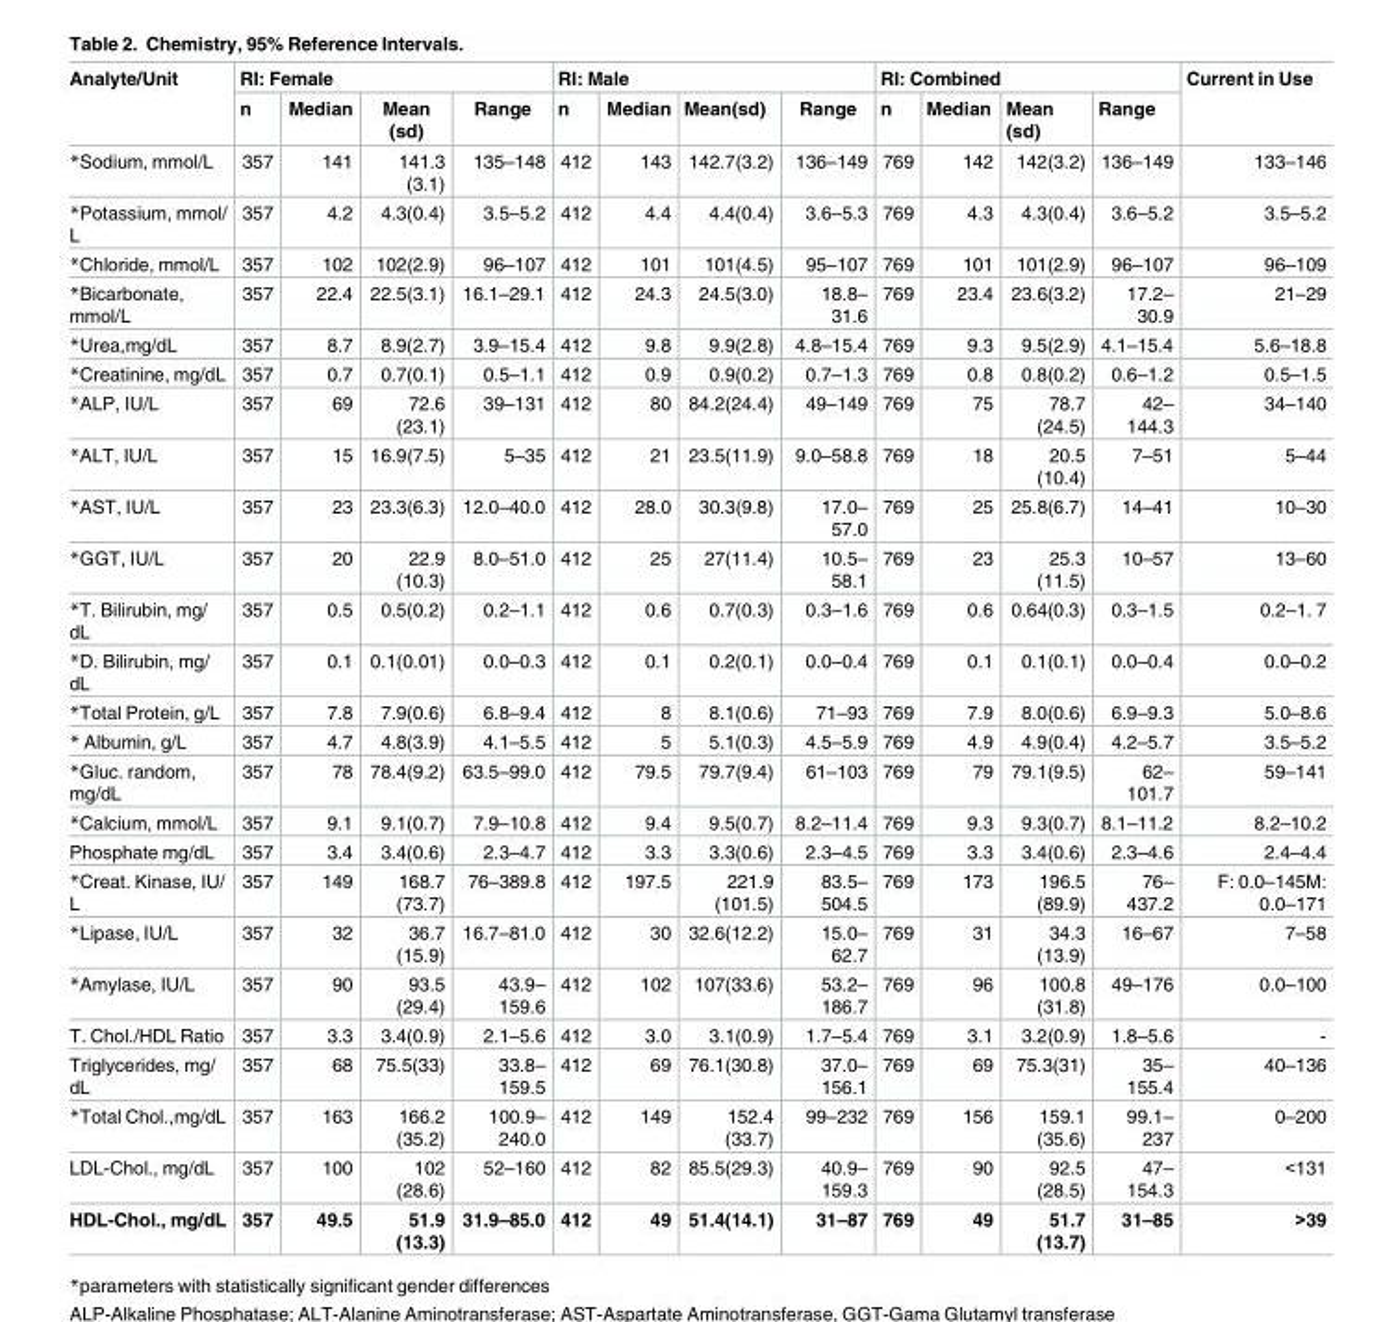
<table><thead><tr><td rowspan="2">Analyte/Unit</td><td colspan="4">RI: Female</td><td colspan="4">RI: Male</td><td colspan="4">RI: Combined</td><td rowspan="2">Current in Use</td></tr><tr><td>n</td><td>Median</td><td>Mean (sd)</td><td>Range</td><td>n</td><td>Median</td><td>Mean(sd)</td><td>Range</td><td>n</td><td>Median</td><td>Mean (sd)</td><td>Range</td></tr></thead><tbody><tr><td>*Sodium, mmol/L</td><td>357</td><td>141</td><td>141.3 (3.1)</td><td>135–148</td><td>412</td><td>143</td><td>142.7(3.2)</td><td>136–149</td><td>769</td><td>142</td><td>142(3.2)</td><td>136–149</td><td>133–146</td></tr><tr><td>*Potassium, mmol/ L</td><td>357</td><td>4.2</td><td>4.3(0.4)</td><td>3.5–5.2</td><td>412</td><td>4.4</td><td>4.4(0.4)</td><td>3.6–5.3</td><td>769</td><td>4.3</td><td>4.3(0.4)</td><td>3.6–5.2</td><td>3.5–5.2</td></tr><tr><td>*Chloride, mmol/L</td><td>357</td><td>102</td><td>102(2.9)</td><td>96–107</td><td>412</td><td>101</td><td>101(4.5)</td><td>95–107</td><td>769</td><td>101</td><td>101(2.9)</td><td>96–107</td><td>96–109</td></tr><tr><td>*Bicarbonate, mmol/L</td><td>357</td><td>22.4</td><td>22.5(3.1)</td><td>16.1–29.1</td><td>412</td><td>24.3</td><td>24.5(3.0)</td><td>18.8– 31.6</td><td>769</td><td>23.4</td><td>23.6(3.2)</td><td>17.2– 30.9</td><td>21–29</td></tr><tr><td>*Urea,mg/dL</td><td>357</td><td>8.7</td><td>8.9(2.7)</td><td>3.9–15.4</td><td>412</td><td>9.8</td><td>9.9(2.8)</td><td>4.8–15.4</td><td>769</td><td>9.3</td><td>9.5(2.9)</td><td>4.1–15.4</td><td>5.6–18.8</td></tr><tr><td>*Creatinine, mg/dL</td><td>357</td><td>0.7</td><td>0.7(0.1)</td><td>0.5–1.1</td><td>412</td><td>0.9</td><td>0.9(0.2)</td><td>0.7–1.3</td><td>769</td><td>0.8</td><td>0.8(0.2)</td><td>0.6–1.2</td><td>0.5–1.5</td></tr><tr><td>*ALP, IU/L</td><td>357</td><td>69</td><td>72.6 (23.1)</td><td>39–131</td><td>412</td><td>80</td><td>84.2(24.4)</td><td>49–149</td><td>769</td><td>75</td><td>78.7 (24.5)</td><td>42– 144.3</td><td>34–140</td></tr><tr><td>*ALT, IU/L</td><td>357</td><td>15</td><td>16.9(7.5)</td><td>5–35</td><td>412</td><td>21</td><td>23.5(11.9)</td><td>9.0–58.8</td><td>769</td><td>18</td><td>20.5 (10.4)</td><td>7–51</td><td>5–44</td></tr><tr><td>*AST, IU/L</td><td>357</td><td>23</td><td>23.3(6.3)</td><td>12.0–40.0</td><td>412</td><td>28.0</td><td>30.3(9.8)</td><td>17.0– 57.0</td><td>769</td><td>25</td><td>25.8(6.7)</td><td>14–41</td><td>10–30</td></tr><tr><td>*GGT, IU/L</td><td>357</td><td>20</td><td>22.9 (10.3)</td><td>8.0–51.0</td><td>412</td><td>25</td><td>27(11.4)</td><td>10.5– 58.1</td><td>769</td><td>23</td><td>25.3 (11.5)</td><td>10–57</td><td>13–60</td></tr><tr><td>*T. Bilirubin, mg/ dL</td><td>357</td><td>0.5</td><td>0.5(0.2)</td><td>0.2–1.1</td><td>412</td><td>0.6</td><td>0.7(0.3)</td><td>0.3–1.6</td><td>769</td><td>0.6</td><td>0.64(0.3)</td><td>0.3–1.5</td><td>0.2–1. 7</td></tr><tr><td>*D. Bilirubin, mg/ dL</td><td>357</td><td>0.1</td><td>0.1(0.01)</td><td>0.0–0.3</td><td>412</td><td>0.1</td><td>0.2(0.1)</td><td>0.0–0.4</td><td>769</td><td>0.1</td><td>0.1(0.1)</td><td>0.0–0.4</td><td>0.0–0.2</td></tr><tr><td>*Total Protein, g/L</td><td>357</td><td>7.8</td><td>7.9(0.6)</td><td>6.8–9.4</td><td>412</td><td>8</td><td>8.1(0.6)</td><td>71–93</td><td>769</td><td>7.9</td><td>8.0(0.6)</td><td>6.9–9.3</td><td>5.0–8.6</td></tr><tr><td>* Albumin, g/L</td><td>357</td><td>4.7</td><td>4.8(3.9)</td><td>4.1–5.5</td><td>412</td><td>5</td><td>5.1(0.3)</td><td>4.5–5.9</td><td>769</td><td>4.9</td><td>4.9(0.4)</td><td>4.2–5.7</td><td>3.5–5.2</td></tr><tr><td>*Gluc. random, mg/dL</td><td>357</td><td>78</td><td>78.4(9.2)</td><td>63.5–99.0</td><td>412</td><td>79.5</td><td>79.7(9.4)</td><td>61–103</td><td>769</td><td>79</td><td>79.1(9.5)</td><td>62– 101.7</td><td>59–141</td></tr><tr><td>*Calcium, mmol/L</td><td>357</td><td>9.1</td><td>9.1(0.7)</td><td>7.9–10.8</td><td>412</td><td>9.4</td><td>9.5(0.7)</td><td>8.2–11.4</td><td>769</td><td>9.3</td><td>9.3(0.7)</td><td>8.1–11.2</td><td>8.2–10.2</td></tr><tr><td>Phosphate mg/dL</td><td>357</td><td>3.4</td><td>3.4(0.6)</td><td>2.3–4.7</td><td>412</td><td>3.3</td><td>3.3(0.6)</td><td>2.3–4.5</td><td>769</td><td>3.3</td><td>3.4(0.6)</td><td>2.3–4.6</td><td>2.4–4.4</td></tr><tr><td>*Creat. Kinase, IU/ L</td><td>357</td><td>149</td><td>168.7 (73.7)</td><td>76–389.8</td><td>412</td><td>197.5</td><td>221.9 (101.5)</td><td>83.5– 504.5</td><td>769</td><td>173</td><td>196.5 (89.9)</td><td>76– 437.2</td><td>F: 0.0–145M: 0.0–171</td></tr><tr><td>*Lipase, IU/L</td><td>357</td><td>32</td><td>36.7 (15.9)</td><td>16.7–81.0</td><td>412</td><td>30</td><td>32.6(12.2)</td><td>15.0– 62.7</td><td>769</td><td>31</td><td>34.3 (13.9)</td><td>16–67</td><td>7–58</td></tr><tr><td>*Amylase, IU/L</td><td>357</td><td>90</td><td>93.5 (29.4)</td><td>43.9– 159.6</td><td>412</td><td>102</td><td>107(33.6)</td><td>53.2– 186.7</td><td>769</td><td>96</td><td>100.8 (31.8)</td><td>49–176</td><td>0.0–100</td></tr><tr><td>T. Chol./HDL Ratio</td><td>357</td><td>3.3</td><td>3.4(0.9)</td><td>2.1–5.6</td><td>412</td><td>3.0</td><td>3.1(0.9)</td><td>1.7–5.4</td><td>769</td><td>3.1</td><td>3.2(0.9)</td><td>1.8–5.6</td><td>-</td></tr><tr><td>Triglycerides, mg/ dL</td><td>357</td><td>68</td><td>75.5(33)</td><td>33.8– 159.5</td><td>412</td><td>69</td><td>76.1(30.8)</td><td>37.0– 156.1</td><td>769</td><td>69</td><td>75.3(31)</td><td>35– 155.4</td><td>40–136</td></tr><tr><td>*Total Chol.,mg/dL</td><td>357</td><td>163</td><td>166.2 (35.2)</td><td>100.9– 240.0</td><td>412</td><td>149</td><td>152.4 (33.7)</td><td>99–232</td><td>769</td><td>156</td><td>159.1 (35.6)</td><td>99.1– 237</td><td>0–200</td></tr><tr><td>LDL-Chol., mg/dL</td><td>357</td><td>100</td><td>102 (28.6)</td><td>52–160</td><td>412</td><td>82</td><td>85.5(29.3)</td><td>40.9– 159.3</td><td>769</td><td>90</td><td>92.5 (28.5)</td><td>47– 154.3</td><td>&lt;131</td></tr><tr><td>HDL-Chol., mg/dL</td><td>357</td><td>49.5</td><td>51.9 (13.3)</td><td>31.9–85.0</td><td>412</td><td>49</td><td>51.4(14.1)</td><td>31–87</td><td>769</td><td>49</td><td>51.7 (13.7)</td><td>31–85</td><td>&gt;39</td></tr></tbody></table>